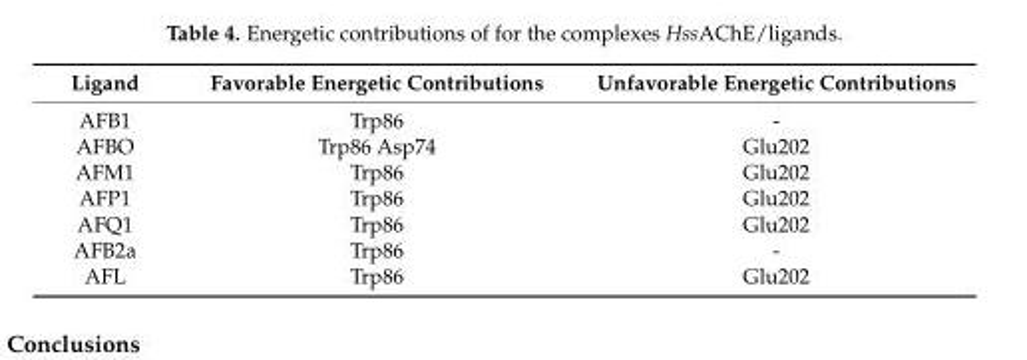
<table><thead><tr><td>Ligand</td><td>Favorable Energetic Contributions</td><td>Unfavorable Energetic Contributions</td></tr></thead><tbody><tr><td>AFB1</td><td>Trp86</td><td>-</td></tr><tr><td>AFBO</td><td>Trp86 Asp74</td><td>Glu202</td></tr><tr><td>AFM1</td><td>Trp86</td><td>Glu202</td></tr><tr><td>AFP1</td><td>Trp86</td><td>Glu202</td></tr><tr><td>AFQ1</td><td>Trp86</td><td>Glu202</td></tr><tr><td>AFB2a</td><td>Trp86</td><td>-</td></tr><tr><td>AFL</td><td>Trp86</td><td>Glu202</td></tr></tbody></table>